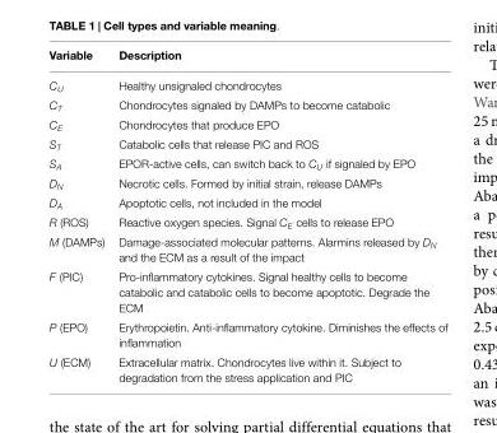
<table><thead><tr><td>Variable</td><td>Description</td></tr></thead><tbody><tr><td>C<sub>U</sub></td><td>Healthy unsignaled chondrocytes</td></tr><tr><td>C<sub>T</sub></td><td>Chondrocytes signaled by DAMPs to become catabolic</td></tr><tr><td>C<sub>E</sub></td><td>Chondrocytes that produce EPO</td></tr><tr><td>S<sub>T</sub></td><td>Catabolic cells that release PIC and ROS</td></tr><tr><td>S<sub>A</sub></td><td>EPOR-active cells, can switch back to C<sub>U</sub> if signaled by EPO</td></tr><tr><td>D<sub>N</sub></td><td>Necrotic cells. Formed by initial strain, release DAMPs</td></tr><tr><td>D<sub>A</sub></td><td>Apoptotic cells, not included in the model</td></tr><tr><td>R (ROS)</td><td>Reactive oxygen species. Signal C<sub>E</sub> cells to release EPO</td></tr><tr><td>M (DAMPs)</td><td>Damage-associated molecular patterns. Alarmins released by D<sub>N</sub> and the ECM as a result of the impact</td></tr><tr><td>F (PIC)</td><td>Pro-inflammatory cytokines. Signal healthy cells to become catabolic and catabolic cells to become apoptotic. Degrade the ECM</td></tr><tr><td>P (EPO)</td><td>Erythropoietin. Anti-inflammatory cytokine. Diminishes the effects of inflammation</td></tr><tr><td>U (ECM)</td><td>Extracellular matrix. Chondrocytes live within it. Subject to degradation from the stress application and PIC</td></tr></tbody></table>